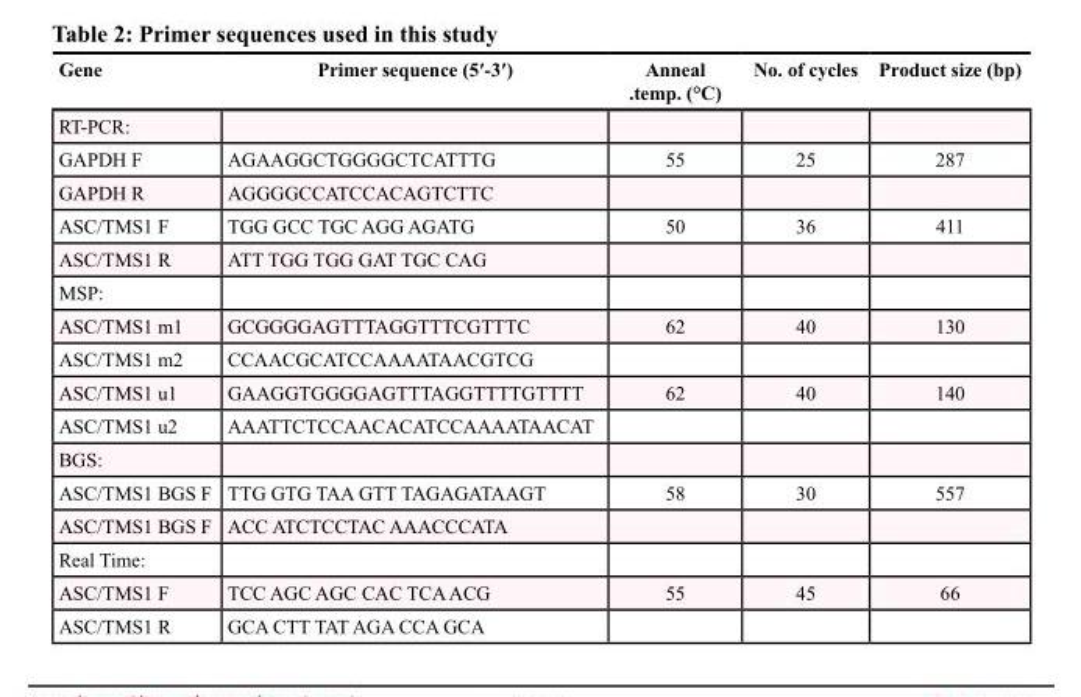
<table><thead><tr><td>Gene</td><td>Primer sequence (5′-3′)</td><td>Anneal .temp. (°C)</td><td>No. of cycles</td><td>Product size (bp)</td></tr></thead><tbody><tr><td colspan="5">RT-PCR:</td></tr><tr><td>GAPDH F</td><td>AGAAGGCTGGGGCTCATTTG</td><td>55</td><td>25</td><td>287</td></tr><tr><td>GAPDH R</td><td>AGGGGCCATCCACAGTCTTC</td><td></td><td></td><td></td></tr><tr><td>ASC/TMS1 F</td><td>TGG GCC TGC AGG AGATG</td><td>50</td><td>36</td><td>411</td></tr><tr><td>ASC/TMS1 R</td><td>ATT TGG TGG GAT TGC CAG</td><td></td><td></td><td></td></tr><tr><td colspan="5">MSP:</td></tr><tr><td>ASC/TMS1 m1</td><td>GCGGGGAGTTTAGGTTTCGTTTC</td><td>62</td><td>40</td><td>130</td></tr><tr><td>ASC/TMS1 m2</td><td>CCAACGCATCCAAAATAACGTCG</td><td></td><td></td><td></td></tr><tr><td>ASC/TMS1 u1</td><td>GAAGGTGGGGAGTTTAGGTTTTGTTTT</td><td>62</td><td>40</td><td>140</td></tr><tr><td>ASC/TMS1 u2</td><td>AAATTCTCCAACACATCCAAAATAACAT</td><td></td><td></td><td></td></tr><tr><td colspan="5">BGS:</td></tr><tr><td>ASC/TMS1 BGS F</td><td>TTG GTG TAA GTT TAGAGATAAGT</td><td>58</td><td>30</td><td>557</td></tr><tr><td>ASC/TMS1 BGS F</td><td>ACC ATCTCCTAC AAACCCATA</td><td></td><td></td><td></td></tr><tr><td colspan="5">Real Time:</td></tr><tr><td>ASC/TMS1 F</td><td>TCC AGC AGC CAC TCA ACG</td><td>55</td><td>45</td><td>66</td></tr><tr><td>ASC/TMS1 R</td><td>GCA CTT TAT AGA CCA GCA</td><td></td><td></td><td></td></tr></tbody></table>